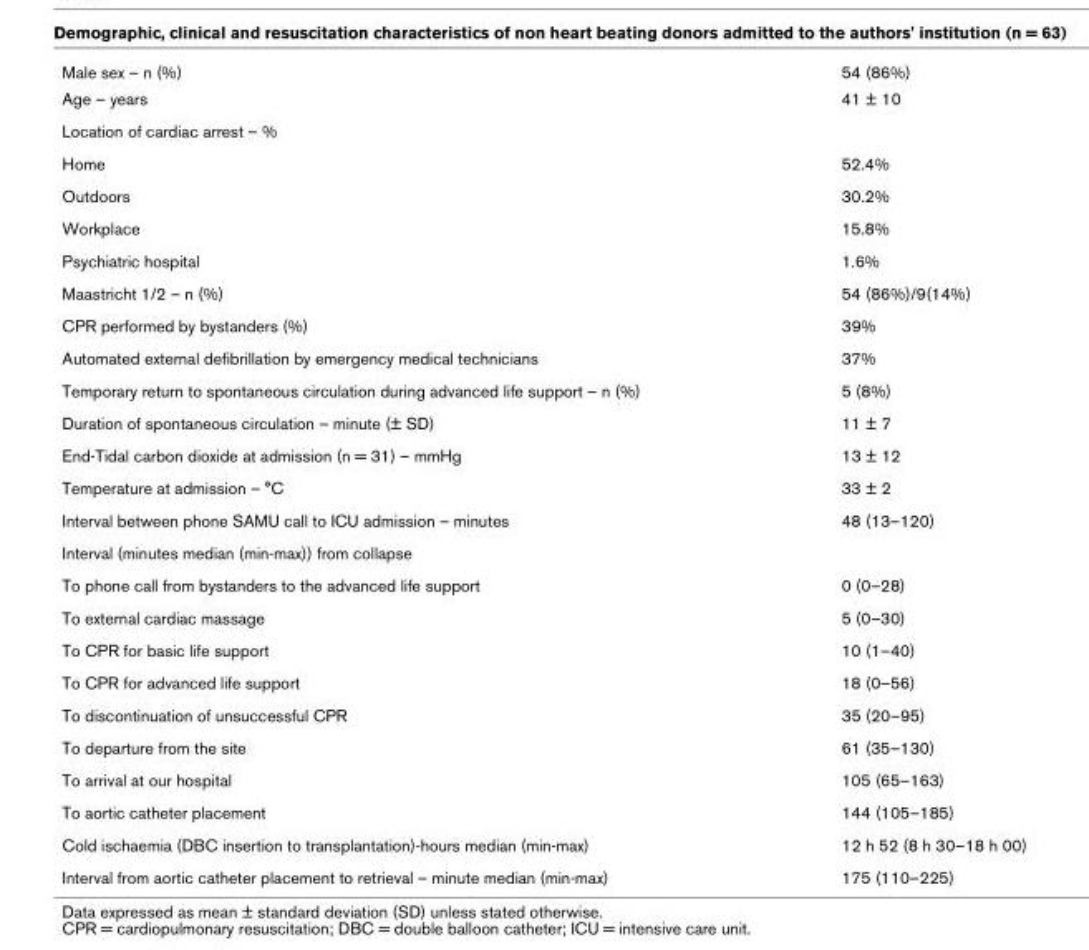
<table><tbody><tr><td>Male sex – n (%)</td><td>54 (86%)</td></tr><tr><td>Age – years</td><td>41 ± 10</td></tr><tr><td colspan="2">Location of cardiac arrest – %</td></tr><tr><td>Home</td><td>52.4%</td></tr><tr><td>Outdoors</td><td>30.2%</td></tr><tr><td>Workplace</td><td>15.8%</td></tr><tr><td>Psychiatric hospital</td><td>1.6%</td></tr><tr><td>Maastricht 1/2 – n (%)</td><td>54 (86%)/9(14%)</td></tr><tr><td>CPR performed by bystanders (%)</td><td>39%</td></tr><tr><td>Automated external defibrillation by emergency medical technicians</td><td>37%</td></tr><tr><td>Temporary return to spontaneous circulation during advanced life support – n (%)</td><td>5 (8%)</td></tr><tr><td>Duration of spontaneous circulation – minute (± SD)</td><td>11 ± 7</td></tr><tr><td>End-Tidal carbon dioxide at admission (n = 31) – mmHg</td><td>13 ± 12</td></tr><tr><td>Temperature at admission – °C</td><td>33 ± 2</td></tr><tr><td>Interval between phone SAMU call to ICU admission – minutes</td><td>48 (13–120)</td></tr><tr><td colspan="2">Interval (minutes median (min-max)) from collapse</td></tr><tr><td>To phone call from bystanders to the advanced life support</td><td>0 (0–28)</td></tr><tr><td>To external cardiac massage</td><td>5 (0–30)</td></tr><tr><td>To CPR for basic life support</td><td>10 (1–40)</td></tr><tr><td>To CPR for advanced life support</td><td>18 (0–56)</td></tr><tr><td>To discontinuation of unsuccessful CPR</td><td>35 (20–95)</td></tr><tr><td>To departure from the site</td><td>61 (35–130)</td></tr><tr><td>To arrival at our hospital</td><td>105 (65–163)</td></tr><tr><td>To aortic catheter placement</td><td>144 (105–185)</td></tr><tr><td>Cold ischaemia (DBC insertion to transplantation)-hours median (min-max)</td><td>12 h 52 (8 h 30–18 h 00)</td></tr><tr><td>Interval from aortic catheter placement to retrieval – minute median (min-max)</td><td>175 (110–225)</td></tr></tbody></table>